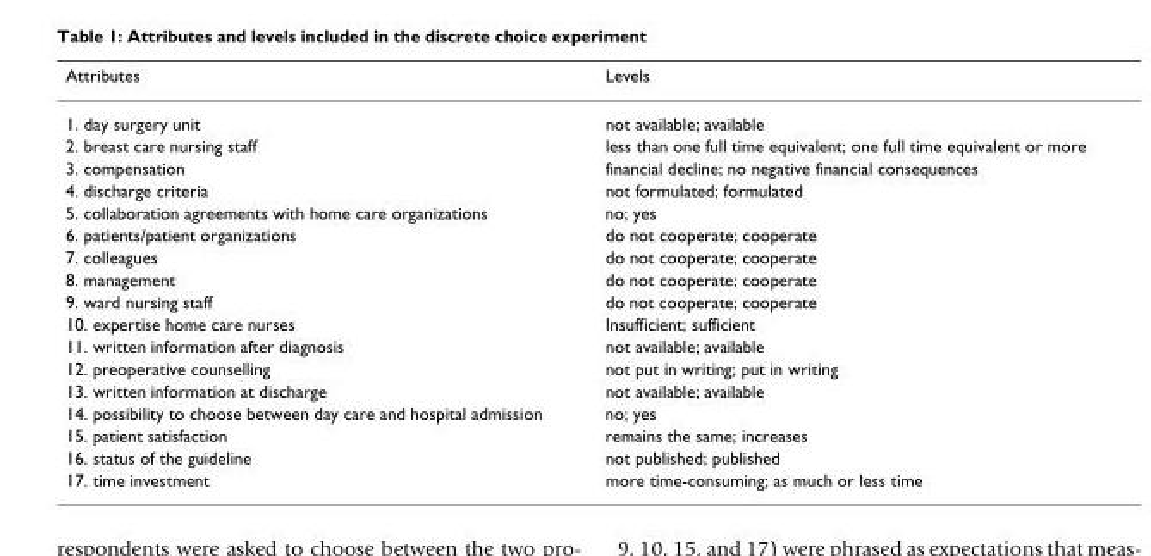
<table><thead><tr><td>Attributes</td><td>Levels</td></tr></thead><tbody><tr><td>1. day surgery unit</td><td>not available; available</td></tr><tr><td>2. breast care nursing staff</td><td>less than one full time equivalent; one full time equivalent or more</td></tr><tr><td>3. compensation</td><td>financial decline; no negative financial consequences</td></tr><tr><td>4. discharge criteria</td><td>not formulated; formulated</td></tr><tr><td>5. collaboration agreements with home care organizations</td><td>no; yes</td></tr><tr><td>6. patients/patient organizations</td><td>do not cooperate; cooperate</td></tr><tr><td>7. colleagues</td><td>do not cooperate; cooperate</td></tr><tr><td>8. management</td><td>do not cooperate; cooperate</td></tr><tr><td>9. ward nursing staff</td><td>do not cooperate; cooperate</td></tr><tr><td>10. expertise home care nurses</td><td>Insufficient; sufficient</td></tr><tr><td>11. written information after diagnosis</td><td>not available; available</td></tr><tr><td>12. preoperative counselling</td><td>not put in writing; put in writing</td></tr><tr><td>13. written information at discharge</td><td>not available; available</td></tr><tr><td>14. possibility to choose between day care and hospital admission</td><td>no; yes</td></tr><tr><td>15. patient satisfaction</td><td>remains the same; increases</td></tr><tr><td>16. status of the guideline</td><td>not published; published</td></tr><tr><td>17. time investment</td><td>more time-consuming; as much or less time</td></tr></tbody></table>